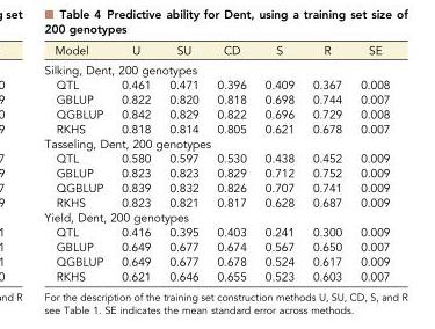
<table><thead><tr><td>Model</td><td>U</td><td>SU</td><td>CD</td><td>S</td><td>R</td><td>SE</td></tr></thead><tbody><tr><td colspan="7">Silking, Dent, 200 genotypes</td></tr><tr><td>QTL</td><td>0.461</td><td>0.471</td><td>0.396</td><td>0.409</td><td>0.367</td><td>0.008</td></tr><tr><td>GBLUP</td><td>0.822</td><td>0.820</td><td>0.818</td><td>0.698</td><td>0.744</td><td>0.007</td></tr><tr><td>QGBLUP</td><td>0.842</td><td>0.829</td><td>0.822</td><td>0.696</td><td>0.729</td><td>0.008</td></tr><tr><td>RKHS</td><td>0.818</td><td>0.814</td><td>0.805</td><td>0.621</td><td>0.678</td><td>0.007</td></tr><tr><td colspan="7">Tasseling, Dent, 200 genotypes</td></tr><tr><td>QTL</td><td>0.580</td><td>0.597</td><td>0.530</td><td>0.438</td><td>0.452</td><td>0.009</td></tr><tr><td>GBLUP</td><td>0.823</td><td>0.823</td><td>0.829</td><td>0.712</td><td>0.752</td><td>0.009</td></tr><tr><td>QGBLUP</td><td>0.839</td><td>0.832</td><td>0.826</td><td>0.707</td><td>0.741</td><td>0.009</td></tr><tr><td>RKHS</td><td>0.823</td><td>0.821</td><td>0.817</td><td>0.628</td><td>0.687</td><td>0.009</td></tr><tr><td colspan="7">Yield, Dent, 200 genotypes</td></tr><tr><td>QTL</td><td>0.416</td><td>0.395</td><td>0.403</td><td>0.241</td><td>0.300</td><td>0.009</td></tr><tr><td>GBLUP</td><td>0.649</td><td>0.677</td><td>0.674</td><td>0.567</td><td>0.650</td><td>0.007</td></tr><tr><td>QGBLUP</td><td>0.649</td><td>0.677</td><td>0.678</td><td>0.524</td><td>0.617</td><td>0.009</td></tr><tr><td>RKHS</td><td>0.621</td><td>0.646</td><td>0.655</td><td>0.523</td><td>0.603</td><td>0.007</td></tr></tbody></table>